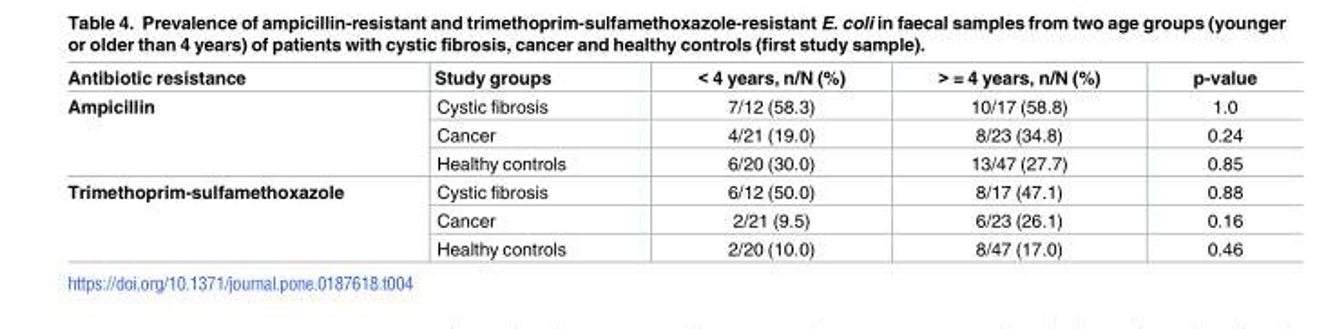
<table><thead><tr><td>Antibiotic resistance</td><td>Study groups</td><td>&lt; 4 years, n/N (%)</td><td>&gt; = 4 years, n/N (%)</td><td>p-value</td></tr></thead><tbody><tr><td rowspan="3">Ampicillin</td><td>Cystic fibrosis</td><td>7/12 (58.3)</td><td>10/17 (58.8)</td><td>1.0</td></tr><tr><td>Cancer</td><td>4/21 (19.0)</td><td>8/23 (34.8)</td><td>0.24</td></tr><tr><td>Healthy controls</td><td>6/20 (30.0)</td><td>13/47 (27.7)</td><td>0.85</td></tr><tr><td rowspan="3">Trimethoprim-sulfamethoxazole</td><td>Cystic fibrosis</td><td>6/12 (50.0)</td><td>8/17 (47.1)</td><td>0.88</td></tr><tr><td>Cancer</td><td>2/21 (9.5)</td><td>6/23 (26.1)</td><td>0.16</td></tr><tr><td>Healthy controls</td><td>2/20 (10.0)</td><td>8/47 (17.0)</td><td>0.46</td></tr></tbody></table>